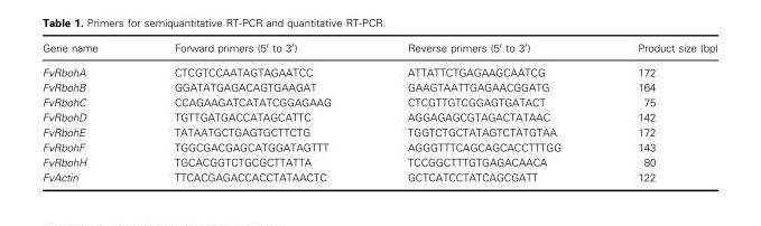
<table><thead><tr><td>Gene name</td><td>Forward primers (5′ to 3′)</td><td>Reverse primers (5′ to 3′)</td><td>Product size (bp)</td></tr></thead><tbody><tr><td>FvRbohA</td><td>CTCGTCCAATAGTAGAATCC</td><td>ATTATTCTGAGAAGCAATCG</td><td>172</td></tr><tr><td>FvRbohB</td><td>GGATATGAGACAGTGAAGAT</td><td>GAAGTAATTGAGAACGGATG</td><td>164</td></tr><tr><td>FvRbohC</td><td>CCAGAAGATCATATCGGAGAAG</td><td>CTCGTTGTCGGAGTGATACT</td><td>75</td></tr><tr><td>FvRbohD</td><td>TGTTGATGACCATAGCATTC</td><td>AGGAGAGCGTAGACTATAAC</td><td>142</td></tr><tr><td>FvRbohE</td><td>TATAATGCTGAGTGCTTCTG</td><td>TGGTCTGCTATAGTCTATGTAA</td><td>172</td></tr><tr><td>FvRbohF</td><td>TGGCGACGAGCATGGATAGTTT</td><td>AGGGTTTCAGCAGCACCTTTGG</td><td>143</td></tr><tr><td>FvRbohH</td><td>TGCACGGTCTGCGCTTATTA</td><td>TCCGGCTTTGTGAGACAACA</td><td>80</td></tr><tr><td>FvActin</td><td>TTCACGAGACCACCTATAACTC</td><td>GCTCATCCTATCAGCGATT</td><td>122</td></tr></tbody></table>